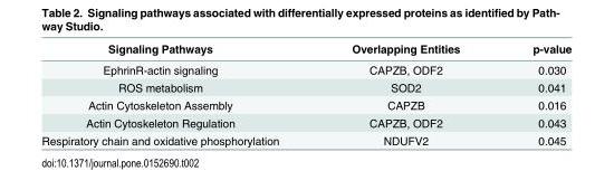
<table><thead><tr><td>Signaling Pathways</td><td>Overlapping Entities</td><td>p-value</td></tr></thead><tbody><tr><td>EphrinR-actin signaling</td><td>CAPZB, ODF2</td><td>0.030</td></tr><tr><td>ROS metabolism</td><td>SOD2</td><td>0.041</td></tr><tr><td>Actin Cytoskeleton Assembly</td><td>CAPZB</td><td>0.016</td></tr><tr><td>Actin Cytoskeleton Regulation</td><td>CAPZB, ODF2</td><td>0.043</td></tr><tr><td>Respiratory chain and oxidative phosphorylation</td><td>NDUFV2</td><td>0.045</td></tr></tbody></table>